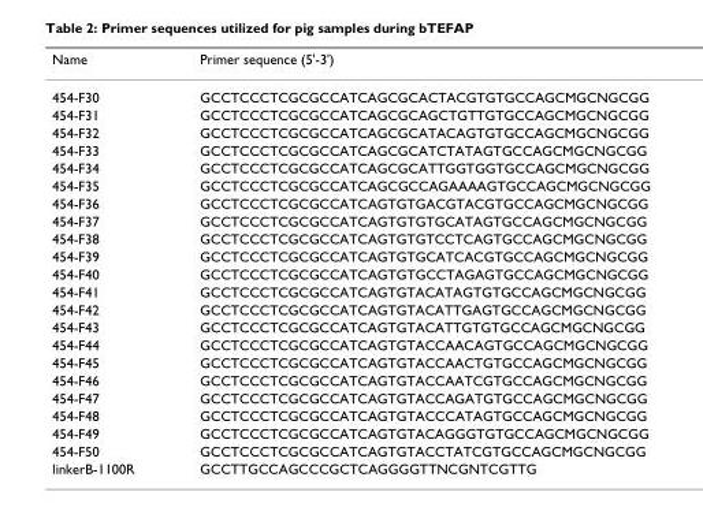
<table><thead><tr><td>Name</td><td>Primer sequence (5&#x27;-3&#x27;)</td></tr></thead><tbody><tr><td>454-F30</td><td>GCCTCCCTCGCGCCATCAGCGCACTACGTGTGCCAGCMGCNGCGG</td></tr><tr><td>454-F31</td><td>GCCTCCCTCGCGCCATCAGCGCAGCTGTTGTGCCAGCMGCNGCGG</td></tr><tr><td>454-F32</td><td>GCCTCCCTCGCGCCATCAGCGCATACAGTGTGCCAGCMGCNGCGG</td></tr><tr><td>454-F33</td><td>GCCTCCCTCGCGCCATCAGCGCATCTATAGTGCCAGCMGCNGCGG</td></tr><tr><td>454-F34</td><td>GCCTCCCTCGCGCCATCAGCGCATTGGTGGTGCCAGCMGCNGCGG</td></tr><tr><td>454-F35</td><td>GCCTCCCTCGCGCCATCAGCGCCAGAAAAGTGCCAGCMGCNGCGG</td></tr><tr><td>454-F36</td><td>GCCTCCCTCGCGCCATCAGTGTGACGTACGTGCCAGCMGCNGCGG</td></tr><tr><td>454-F37</td><td>GCCTCCCTCGCGCCATCAGTGTGTGCATAGTGCCAGCMGCNGCGG</td></tr><tr><td>454-F38</td><td>GCCTCCCTCGCGCCATCAGTGTGTCCTCAGTGCCAGCMGCNGCGG</td></tr><tr><td>454-F39</td><td>GCCTCCCTCGCGCCATCAGTGTGCATCACGTGCCAGCMGCNGCGG</td></tr><tr><td>454-F40</td><td>GCCTCCCTCGCGCCATCAGTGTGCCTAGAGTGCCAGCMGCNGCGG</td></tr><tr><td>454-F41</td><td>GCCTCCCTCGCGCCATCAGTGTACATAGTGTGCCAGCMGCNGCGG</td></tr><tr><td>454-F42</td><td>GCCTCCCTCGCGCCATCAGTGTACATTGAGTGCCAGCMGCNGCGG</td></tr><tr><td>454-F43</td><td>GCCTCCCTCGCGCCATCAGTGTACATTGTGTGCCAGCMGCNGCGG</td></tr><tr><td>454-F44</td><td>GCCTCCCTCGCGCCATCAGTGTACCAACAGTGCCAGCMGCNGCGG</td></tr><tr><td>454-F45</td><td>GCCTCCCTCGCGCCATCAGTGTACCAACTGTGCCAGCMGCNGCGG</td></tr><tr><td>454-F46</td><td>GCCTCCCTCGCGCCATCAGTGTACCAATCGTGCCAGCMGCNGCGG</td></tr><tr><td>454-F47</td><td>GCCTCCCTCGCGCCATCAGTGTACCAGATGTGCCAGCMGCNGCGG</td></tr><tr><td>454-F48</td><td>GCCTCCCTCGCGCCATCAGTGTACCCATAGTGCCAGCMGCNGCGG</td></tr><tr><td>454-F49</td><td>GCCTCCCTCGCGCCATCAGTGTACAGGGTGTGCCAGCMGCNGCGG</td></tr><tr><td>454-F50</td><td>GCCTCCCTCGCGCCATCAGTGTACCTATCGTGCCAGCMGCNGCGG</td></tr><tr><td>linkerB-1100R</td><td>GCCTTGCCAGCCCGCTCAGGGGTTNCGNTCGTTG</td></tr></tbody></table>